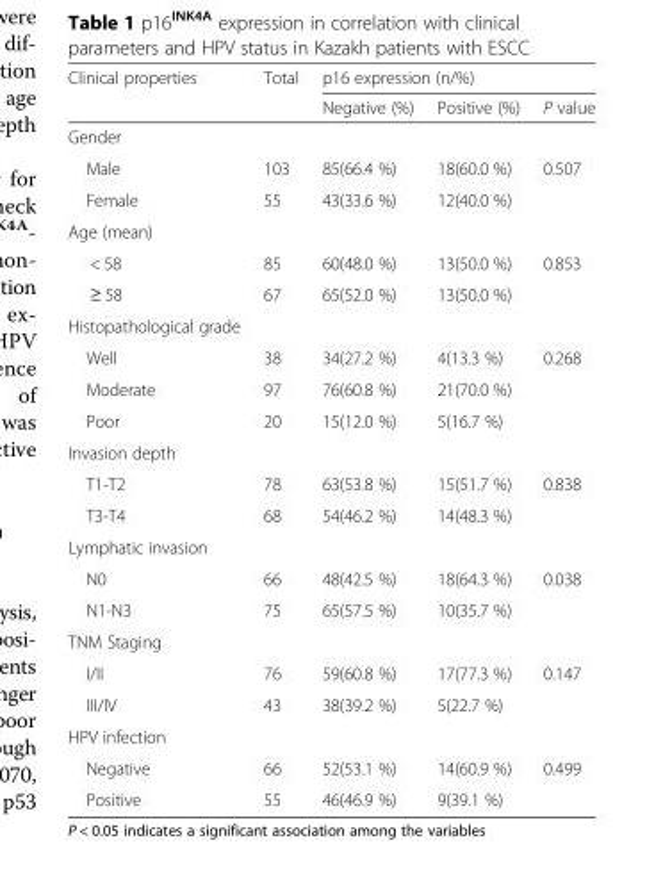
<table><thead><tr><td rowspan="2">Clinical properties</td><td rowspan="2">Total</td><td colspan="3">p16 expression (n/%)</td></tr><tr><td>Negative (%)</td><td>Positive (%)</td><td>P value</td></tr></thead><tbody><tr><td colspan="5">Gender</td></tr><tr><td>Male</td><td>103</td><td>85(66.4 %)</td><td>18(60.0 %)</td><td rowspan="2">0.507</td></tr><tr><td>Female</td><td>55</td><td>43(33.6 %)</td><td>12(40.0 %)</td></tr><tr><td colspan="5">Age (mean)</td></tr><tr><td>&lt; 58</td><td>85</td><td>60(48.0 %)</td><td>13(50.0 %)</td><td rowspan="2">0.853</td></tr><tr><td>≥ 58</td><td>67</td><td>65(52.0 %)</td><td>13(50.0 %)</td></tr><tr><td colspan="5">Histopathological grade</td></tr><tr><td>Well</td><td>38</td><td>34(27.2 %)</td><td>4(13.3 %)</td><td rowspan="3">0.268</td></tr><tr><td>Moderate</td><td>97</td><td>76(60.8 %)</td><td>21(70.0 %)</td></tr><tr><td>Poor</td><td>20</td><td>15(12.0 %)</td><td>5(16.7 %)</td></tr><tr><td colspan="5">Invasion depth</td></tr><tr><td>T1-T2</td><td>78</td><td>63(53.8 %)</td><td>15(51.7 %)</td><td rowspan="2">0.838</td></tr><tr><td>T3-T4</td><td>68</td><td>54(46.2 %)</td><td>14(48.3 %)</td></tr><tr><td colspan="5">Lymphatic invasion</td></tr><tr><td>N0</td><td>66</td><td>48(42.5 %)</td><td>18(64.3 %)</td><td rowspan="2">0.038</td></tr><tr><td>N1-N3</td><td>75</td><td>65(57.5 %)</td><td>10(35.7 %)</td></tr><tr><td colspan="5">TNM Staging</td></tr><tr><td>I/II</td><td>76</td><td>59(60.8 %)</td><td>17(77.3 %)</td><td rowspan="2">0.147</td></tr><tr><td>III/IV</td><td>43</td><td>38(39.2 %)</td><td>5(22.7 %)</td></tr><tr><td colspan="5">HPV infection</td></tr><tr><td>Negative</td><td>66</td><td>52(53.1 %)</td><td>14(60.9 %)</td><td rowspan="2">0.499</td></tr><tr><td>Positive</td><td>55</td><td>46(46.9 %)</td><td>9(39.1 %)</td></tr></tbody></table>